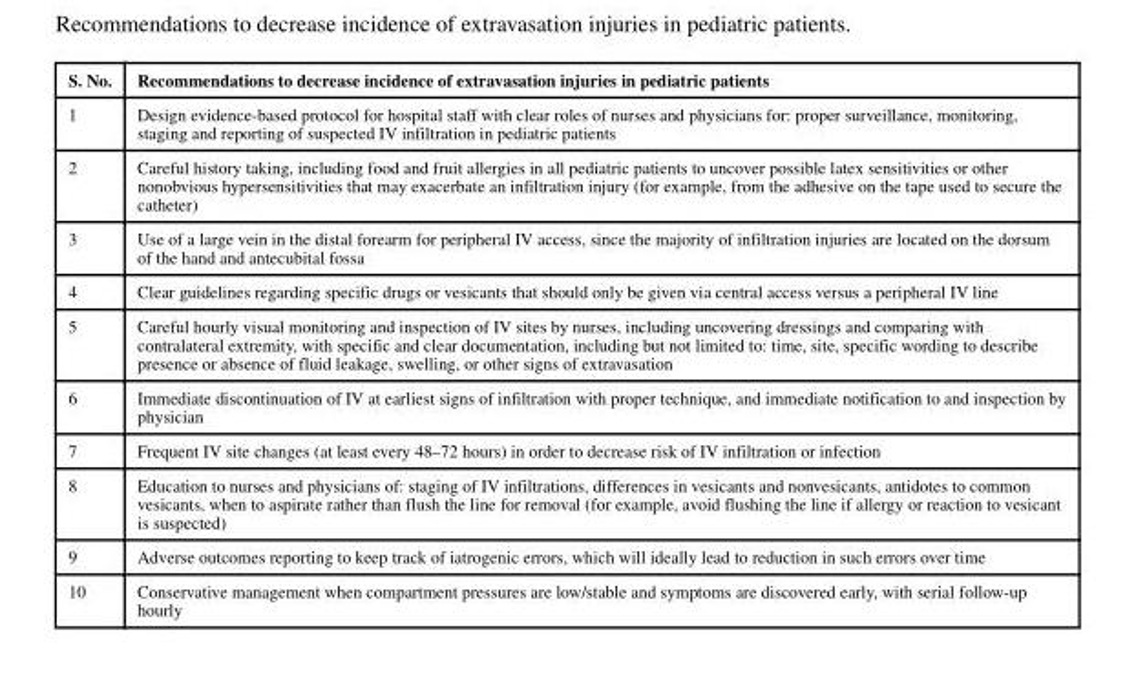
<table><thead><tr><td>S. No.</td><td>Recommendations to decrease incidence of extravasation injuries in pediatric patients</td></tr></thead><tbody><tr><td>1</td><td>Design evidence-based protocol for hospital staff with clear roles of nurses and physicians for: proper surveillance, monitoring, staging and reporting of suspected IV infiltration in pediatric patients</td></tr><tr><td>2</td><td>Careful history taking, including food and fruit allergies in all pediatric patients to uncover possible latex sensitivities or other nonobvious hypersensitivities that may exacerbate an infiltration injury (for example, from the adhesive on the tape used to secure the catheter)</td></tr><tr><td>3</td><td>Use of a large vein in the distal forearm for peripheral IV access, since the majority of infiltration injuries are located on the dorsum of the hand and antecubital fossa</td></tr><tr><td>4</td><td>Clear guidelines regarding specific drugs or vesicants that should only be given via central access versus a peripheral IV line</td></tr><tr><td>5</td><td>Careful hourly visual monitoring and inspection of IV sites by nurses, including uncovering dressings and comparing with contralateral extremity, with specific and clear documentation, including but not limited to: time, site, specific wording to describe presence or absence of fluid leakage, swelling, or other signs of extravasation</td></tr><tr><td>6</td><td>Immediate discontinuation of IV at earliest signs of infiltration with proper technique, and immediate notification to and inspection by physician</td></tr><tr><td>7</td><td>Frequent IV site changes (at least every 48–72 hours) in order to decrease risk of IV infiltration or infection</td></tr><tr><td>8</td><td>Education to nurses and physicians of: staging of IV infiltrations, differences in vesicants and nonvesicants, antidotes to common vesicants, when to aspirate rather than flush the line for removal (for example, avoid flushing the line if allergy or reaction to vesicant is suspected)</td></tr><tr><td>9</td><td>Adverse outcomes reporting to keep track of iatrogenic errors, which will ideally lead to reduction in such errors over time</td></tr><tr><td>10</td><td>Conservative management when compartment pressures are low/stable and symptoms are discovered early, with serial follow-up hourly</td></tr></tbody></table>